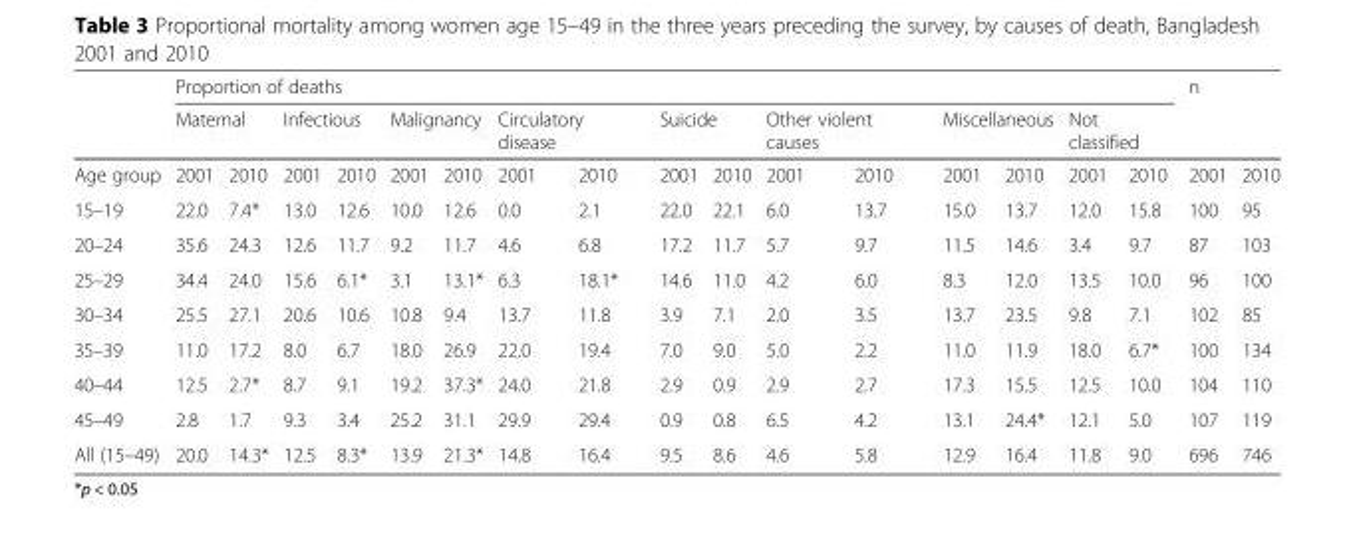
<table><thead><tr><td rowspan="3">Age group</td><td colspan="16">Proportion of deaths</td><td rowspan="2" colspan="2">n</td></tr><tr><td colspan="2">Maternal</td><td colspan="2">Infectious</td><td colspan="2">Malignancy</td><td colspan="2">Circulatory disease</td><td colspan="2">Suicide</td><td colspan="2">Other violent causes</td><td colspan="2">Miscellaneous</td><td colspan="2">Not classified</td></tr><tr><td>2001</td><td>2010</td><td>2001</td><td>2010</td><td>2001</td><td>2010</td><td>2001</td><td>2010</td><td>2001</td><td>2010</td><td>2001</td><td>2010</td><td>2001</td><td>2010</td><td>2001</td><td>2010</td><td>2001</td><td>2010</td></tr></thead><tbody><tr><td>15–19</td><td>22.0</td><td>7.4*</td><td>13.0</td><td>12.6</td><td>10.0</td><td>12.6</td><td>0.0</td><td>2.1</td><td>22.0</td><td>22.1</td><td>6.0</td><td>13.7</td><td>15.0</td><td>13.7</td><td>12.0</td><td>15.8</td><td>100</td><td>95</td></tr><tr><td>20–24</td><td>35.6</td><td>24.3</td><td>12.6</td><td>11.7</td><td>9.2</td><td>11.7</td><td>4.6</td><td>6.8</td><td>17.2</td><td>11.7</td><td>5.7</td><td>9.7</td><td>11.5</td><td>14.6</td><td>3.4</td><td>9.7</td><td>87</td><td>103</td></tr><tr><td>25–29</td><td>34.4</td><td>24.0</td><td>15.6</td><td>6.1*</td><td>3.1</td><td>13.1*</td><td>6.3</td><td>18.1*</td><td>14.6</td><td>11.0</td><td>4.2</td><td>6.0</td><td>8.3</td><td>12.0</td><td>13.5</td><td>10.0</td><td>96</td><td>100</td></tr><tr><td>30–34</td><td>25.5</td><td>27.1</td><td>20.6</td><td>10.6</td><td>10.8</td><td>9.4</td><td>13.7</td><td>11.8</td><td>3.9</td><td>7.1</td><td>2.0</td><td>3.5</td><td>13.7</td><td>23.5</td><td>9.8</td><td>7.1</td><td>102</td><td>85</td></tr><tr><td>35–39</td><td>11.0</td><td>17.2</td><td>8.0</td><td>6.7</td><td>18.0</td><td>26.9</td><td>22.0</td><td>19.4</td><td>7.0</td><td>9.0</td><td>5.0</td><td>2.2</td><td>11.0</td><td>11.9</td><td>18.0</td><td>6.7*</td><td>100</td><td>134</td></tr><tr><td>40–44</td><td>12.5</td><td>2.7*</td><td>8.7</td><td>9.1</td><td>19.2</td><td>37.3*</td><td>24.0</td><td>21.8</td><td>2.9</td><td>0.9</td><td>2.9</td><td>2.7</td><td>17.3</td><td>15.5</td><td>12.5</td><td>10.0</td><td>104</td><td>110</td></tr><tr><td>45–49</td><td>2.8</td><td>1.7</td><td>9.3</td><td>3.4</td><td>25.2</td><td>31.1</td><td>29.9</td><td>29.4</td><td>0.9</td><td>0.8</td><td>6.5</td><td>4.2</td><td>13.1</td><td>24.4*</td><td>12.1</td><td>5.0</td><td>107</td><td>119</td></tr><tr><td>All (15–49)</td><td>20.0</td><td>14.3*</td><td>12.5</td><td>8.3*</td><td>13.9</td><td>21.3*</td><td>14.8</td><td>16.4</td><td>9.5</td><td>8.6</td><td>4.6</td><td>5.8</td><td>12.9</td><td>16.4</td><td>11.8</td><td>9.0</td><td>696</td><td>746</td></tr></tbody></table>